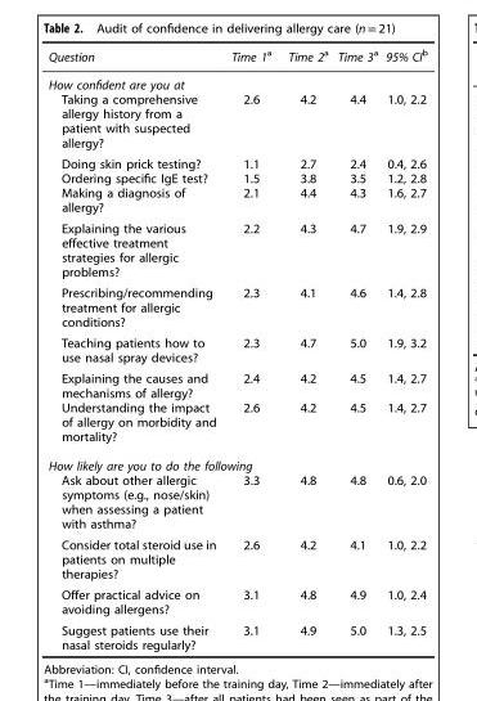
<table><thead><tr><td>Question</td><td>Time 1a</td><td>Time 2a</td><td>Time 3a</td><td>95% CIb</td></tr></thead><tbody><tr><td colspan="5">How confident are you at</td></tr><tr><td>Taking a comprehensive allergy history from a patient with suspected allergy?</td><td>2.6</td><td>4.2</td><td>4.4</td><td>1.0, 2.2</td></tr><tr><td>Doing skin prick testing?</td><td>1.1</td><td>2.7</td><td>2.4</td><td>0.4, 2.6</td></tr><tr><td>Ordering specific IgE test?</td><td>1.5</td><td>3.8</td><td>3.5</td><td>1.2, 2.8</td></tr><tr><td>Making a diagnosis of allergy?</td><td>2.1</td><td>4.4</td><td>4.3</td><td>1.6, 2.7</td></tr><tr><td>Explaining the various effective treatment strategies for allergic problems?</td><td>2.2</td><td>4.3</td><td>4.7</td><td>1.9, 2.9</td></tr><tr><td>Prescribing/recommending treatment for allergic conditions?</td><td>2.3</td><td>4.1</td><td>4.6</td><td>1.4, 2.8</td></tr><tr><td>Teaching patients how to use nasal spray devices?</td><td>2.3</td><td>4.7</td><td>5.0</td><td>1.9, 3.2</td></tr><tr><td>Explaining the causes and mechanisms of allergy?</td><td>2.4</td><td>4.2</td><td>4.5</td><td>1.4, 2.7</td></tr><tr><td>Understanding the impact of allergy on morbidity and mortality?</td><td>2.6</td><td>4.2</td><td>4.5</td><td>1.4, 2.7</td></tr><tr><td colspan="5">How likely are you to do the following</td></tr><tr><td>Ask about other allergic symptoms (e.g., nose/skin) when assessing a patient with asthma?</td><td>3.3</td><td>4.8</td><td>4.8</td><td>0.6, 2.0</td></tr><tr><td>Consider total steroid use in patients on multiple therapies?</td><td>2.6</td><td>4.2</td><td>4.1</td><td>1.0, 2.2</td></tr><tr><td>Offer practical advice on avoiding allergens?</td><td>3.1</td><td>4.8</td><td>4.9</td><td>1.0, 2.4</td></tr><tr><td>Suggest patients use their nasal steroids regularly?</td><td>3.1</td><td>4.9</td><td>5.0</td><td>1.3, 2.5</td></tr></tbody></table>